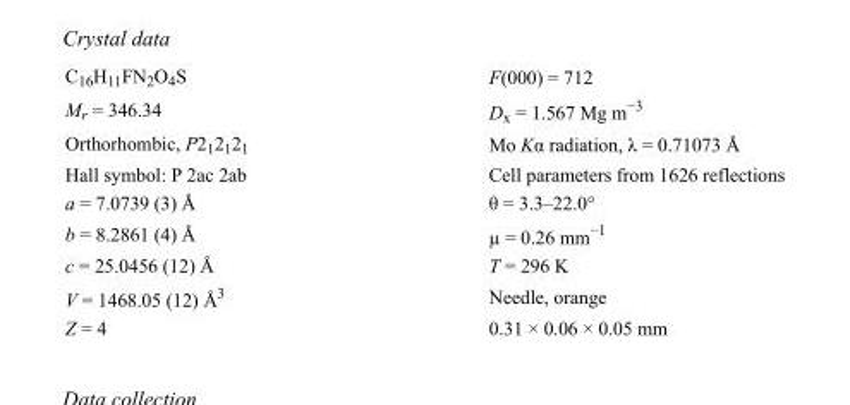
<table><tbody><tr><td>C<sub>16</sub>H<sub>11</sub>FN<sub>2</sub>O<sub>4</sub>S</td><td>F(000) = 712</td></tr><tr><td>M<sub>r</sub> = 346.34</td><td>D<sub>x</sub> = 1.567 Mg m<sup>−3</sup></td></tr><tr><td>Orthorhombic, P2<sub>1</sub>2<sub>1</sub>2<sub>1</sub></td><td>Mo Kα radiation, λ = 0.71073 Å</td></tr><tr><td>Hall symbol: P 2ac 2ab</td><td>Cell parameters from 1626 reflections</td></tr><tr><td>a = 7.0739 (3) Å</td><td>θ = 3.3–22.0°</td></tr><tr><td>b = 8.2861 (4) Å</td><td>µ = 0.26 mm<sup>−1</sup></td></tr><tr><td>c = 25.0456 (12) Å</td><td>T = 296 K</td></tr><tr><td>V = 1468.05 (12) Å<sup>3</sup></td><td>Needle, orange</td></tr><tr><td>Z = 4</td><td>0.31 × 0.06 × 0.05 mm</td></tr></tbody></table>